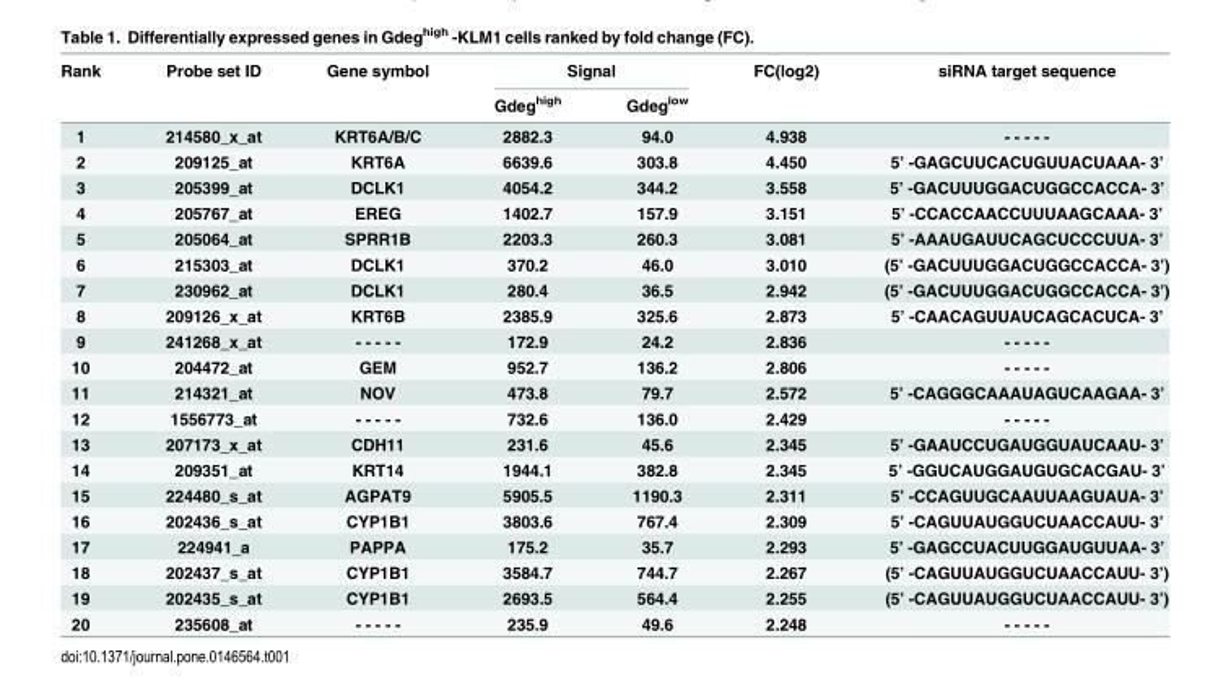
<table><thead><tr><td rowspan="2">Rank</td><td rowspan="2">Probe set ID</td><td rowspan="2">Gene symbol</td><td colspan="2">Signal</td><td rowspan="2">FC(log2)</td><td rowspan="2">siRNA target sequence</td></tr><tr><td>Gdeg<sup>high</sup></td><td>Gdeg<sup>low</sup></td></tr></thead><tbody><tr><td>1</td><td>214580_x_at</td><td>KRT6A/B/C</td><td>2882.3</td><td>94.0</td><td>4.938</td><td>- - - - -</td></tr><tr><td>2</td><td>209125_at</td><td>KRT6A</td><td>6639.6</td><td>303.8</td><td>4.450</td><td>5’ -GAGCUUCACUGUUACUAAA- 3’</td></tr><tr><td>3</td><td>205399_at</td><td>DCLK1</td><td>4054.2</td><td>344.2</td><td>3.558</td><td>5’ -GACUUUGGACUGGCCACCA- 3’</td></tr><tr><td>4</td><td>205767_at</td><td>EREG</td><td>1402.7</td><td>157.9</td><td>3.151</td><td>5’ -CCACCAACCUUUAAGCAAA- 3’</td></tr><tr><td>5</td><td>205064_at</td><td>SPRR1B</td><td>2203.3</td><td>260.3</td><td>3.081</td><td>5’ -AAAUGAUUCAGCUCCCUUA- 3’</td></tr><tr><td>6</td><td>215303_at</td><td>DCLK1</td><td>370.2</td><td>46.0</td><td>3.010</td><td>(5’ -GACUUUGGACUGGCCACCA- 3’)</td></tr><tr><td>7</td><td>230962_at</td><td>DCLK1</td><td>280.4</td><td>36.5</td><td>2.942</td><td>(5’ -GACUUUGGACUGGCCACCA- 3’)</td></tr><tr><td>8</td><td>209126_x_at</td><td>KRT6B</td><td>2385.9</td><td>325.6</td><td>2.873</td><td>5’ -CAACAGUUAUCAGCACUCA- 3’</td></tr><tr><td>9</td><td>241268_x_at</td><td>- - - - -</td><td>172.9</td><td>24.2</td><td>2.836</td><td>- - - - -</td></tr><tr><td>10</td><td>204472_at</td><td>GEM</td><td>952.7</td><td>136.2</td><td>2.806</td><td>- - - - -</td></tr><tr><td>11</td><td>214321_at</td><td>NOV</td><td>473.8</td><td>79.7</td><td>2.572</td><td>5’ -CAGGGCAAAUAGUCAAGAA- 3’</td></tr><tr><td>12</td><td>1556773_at</td><td>- - - - -</td><td>732.6</td><td>136.0</td><td>2.429</td><td>- - - - -</td></tr><tr><td>13</td><td>207173_x_at</td><td>CDH11</td><td>231.6</td><td>45.6</td><td>2.345</td><td>5’ -GAAUCCUGAUGGUAUCAAU- 3’</td></tr><tr><td>14</td><td>209351_at</td><td>KRT14</td><td>1944.1</td><td>382.8</td><td>2.345</td><td>5’ -GGUCAUGGAUGUGCACGAU- 3’</td></tr><tr><td>15</td><td>224480_s_at</td><td>AGPAT9</td><td>5905.5</td><td>1190.3</td><td>2.311</td><td>5’ -CCAGUUGCAAUUAAGUAUA- 3’</td></tr><tr><td>16</td><td>202436_s_at</td><td>CYP1B1</td><td>3803.6</td><td>767.4</td><td>2.309</td><td>5’ -CAGUUAUGGUCUAACCAUU- 3’</td></tr><tr><td>17</td><td>224941_a</td><td>PAPPA</td><td>175.2</td><td>35.7</td><td>2.293</td><td>5’ -GAGCCUACUUGGAUGUUAA- 3’</td></tr><tr><td>18</td><td>202437_s_at</td><td>CYP1B1</td><td>3584.7</td><td>744.7</td><td>2.267</td><td>(5’ -CAGUUAUGGUCUAACCAUU- 3’)</td></tr><tr><td>19</td><td>202435_s_at</td><td>CYP1B1</td><td>2693.5</td><td>564.4</td><td>2.255</td><td>(5’ -CAGUUAUGGUCUAACCAUU- 3’)</td></tr><tr><td>20</td><td>235608_at</td><td>- - - - -</td><td>235.9</td><td>49.6</td><td>2.248</td><td>- - - - -</td></tr></tbody></table>